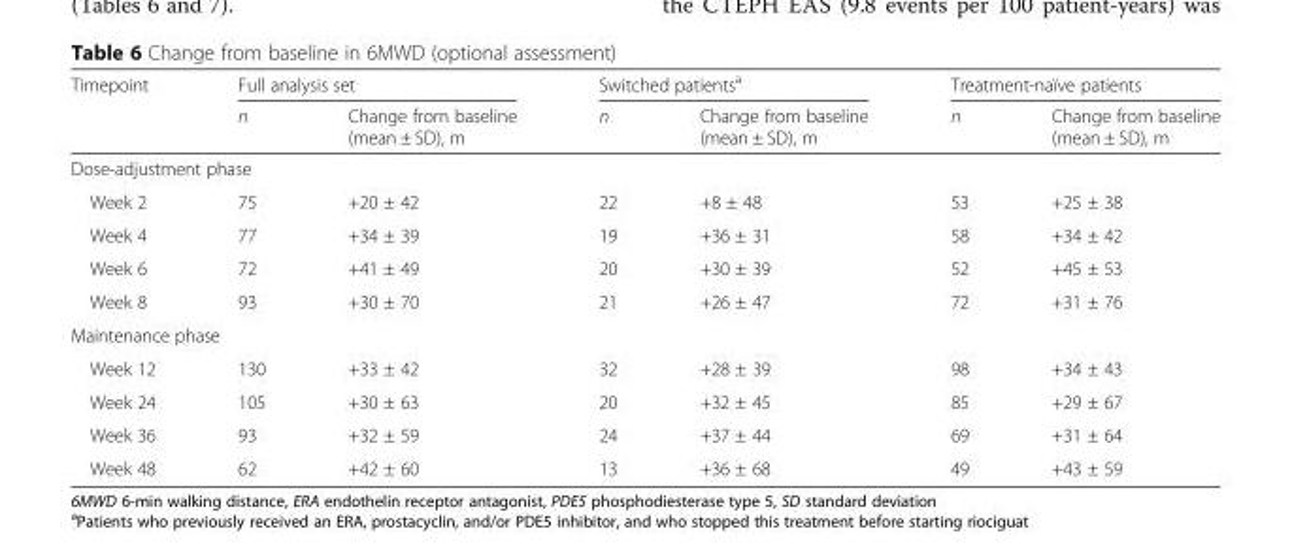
<table><thead><tr><td rowspan="2">Timepoint</td><td colspan="2">Full analysis set</td><td colspan="2">Switched patients<sup>a</sup></td><td colspan="2">Treatment-naïve patients</td></tr><tr><td>n</td><td>Change from baseline (mean ± SD), m</td><td>n</td><td>Change from baseline (mean ± SD), m</td><td>n</td><td>Change from baseline (mean ± SD), m</td></tr></thead><tbody><tr><td colspan="7">Dose-adjustment phase</td></tr><tr><td>Week 2</td><td>75</td><td>+20 ± 42</td><td>22</td><td>+8 ± 48</td><td>53</td><td>+25 ± 38</td></tr><tr><td>Week 4</td><td>77</td><td>+34 ± 39</td><td>19</td><td>+36 ± 31</td><td>58</td><td>+34 ± 42</td></tr><tr><td>Week 6</td><td>72</td><td>+41 ± 49</td><td>20</td><td>+30 ± 39</td><td>52</td><td>+45 ± 53</td></tr><tr><td>Week 8</td><td>93</td><td>+30 ± 70</td><td>21</td><td>+26 ± 47</td><td>72</td><td>+31 ± 76</td></tr><tr><td colspan="7">Maintenance phase</td></tr><tr><td>Week 12</td><td>130</td><td>+33 ± 42</td><td>32</td><td>+28 ± 39</td><td>98</td><td>+34 ± 43</td></tr><tr><td>Week 24</td><td>105</td><td>+30 ± 63</td><td>20</td><td>+32 ± 45</td><td>85</td><td>+29 ± 67</td></tr><tr><td>Week 36</td><td>93</td><td>+32 ± 59</td><td>24</td><td>+37 ± 44</td><td>69</td><td>+31 ± 64</td></tr><tr><td>Week 48</td><td>62</td><td>+42 ± 60</td><td>13</td><td>+36 ± 68</td><td>49</td><td>+43 ± 59</td></tr></tbody></table>